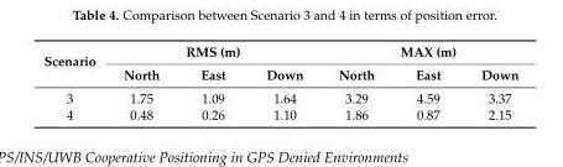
<table><thead><tr><td rowspan="2">Scenario</td><td colspan="3">RMS (m)</td><td colspan="3">MAX (m)</td></tr><tr><td>North</td><td>East</td><td>Down</td><td>North</td><td>East</td><td>Down</td></tr></thead><tbody><tr><td>3</td><td>1.75</td><td>1.09</td><td>1.64</td><td>3.29</td><td>4.59</td><td>3.37</td></tr><tr><td>4</td><td>0.48</td><td>0.26</td><td>1.10</td><td>1.86</td><td>0.87</td><td>2.15</td></tr></tbody></table>